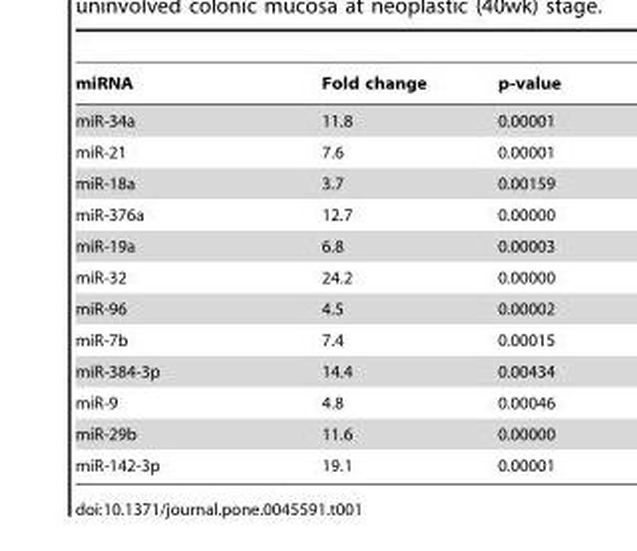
<table><thead><tr><td>miRNA</td><td>Fold change</td><td>p-value</td></tr></thead><tbody><tr><td>miR-34a</td><td>11.8</td><td>0.00001</td></tr><tr><td>miR-21</td><td>7.6</td><td>0.00001</td></tr><tr><td>miR-18a</td><td>3.7</td><td>0.00159</td></tr><tr><td>miR-376a</td><td>12.7</td><td>0.00000</td></tr><tr><td>miR-19a</td><td>6.8</td><td>0.00003</td></tr><tr><td>miR-32</td><td>24.2</td><td>0.00000</td></tr><tr><td>miR-96</td><td>4.5</td><td>0.00002</td></tr><tr><td>miR-7b</td><td>7.4</td><td>0.00015</td></tr><tr><td>miR-384-3p</td><td>14.4</td><td>0.00434</td></tr><tr><td>miR-9</td><td>4.8</td><td>0.00046</td></tr><tr><td>miR-29b</td><td>11.6</td><td>0.00000</td></tr><tr><td>miR-142-3p</td><td>19.1</td><td>0.00001</td></tr></tbody></table>